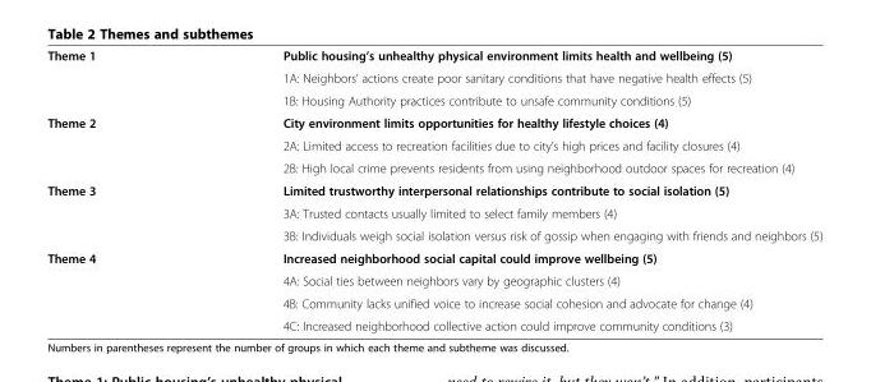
<table><tbody><tr><td rowspan="3">Theme 1</td><td>Public housing’s unhealthy physical environment limits health and wellbeing (5)</td></tr><tr><td>1A: Neighbors’ actions create poor sanitary conditions that have negative health effects (5)</td></tr><tr><td>1B: Housing Authority practices contribute to unsafe community conditions (5)</td></tr><tr><td rowspan="3">Theme 2</td><td>City environment limits opportunities for healthy lifestyle choices (4)</td></tr><tr><td>2A: Limited access to recreation facilities due to city’s high prices and facility closures (4)</td></tr><tr><td>2B: High local crime prevents residents from using neighborhood outdoor spaces for recreation (4)</td></tr><tr><td rowspan="3">Theme 3</td><td>Limited trustworthy interpersonal relationships contribute to social isolation (5)</td></tr><tr><td>3A: Trusted contacts usually limited to select family members (4)</td></tr><tr><td>3B: Individuals weigh social isolation versus risk of gossip when engaging with friends and neighbors (5)</td></tr><tr><td rowspan="4">Theme 4</td><td>Increased neighborhood social capital could improve wellbeing (5)</td></tr><tr><td>4A: Social ties between neighbors vary by geographic clusters (4)</td></tr><tr><td>4B: Community lacks unified voice to increase social cohesion and advocate for change (4)</td></tr><tr><td>4C: Increased neighborhood collective action could improve community conditions (3)</td></tr></tbody></table>